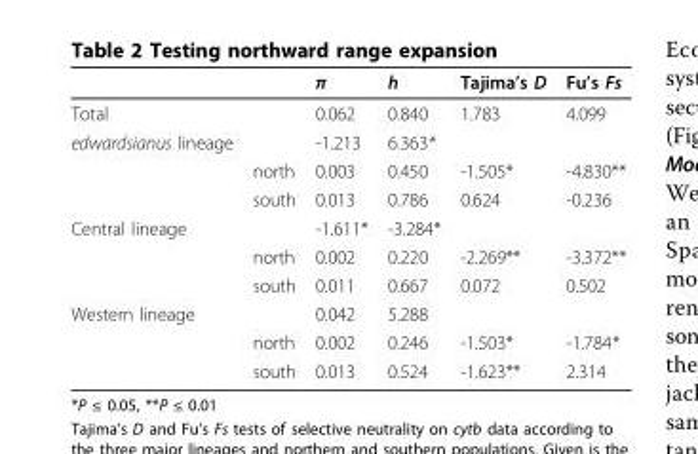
<table><thead><tr><td></td><td></td><td>π</td><td>h</td><td>Tajima’s D</td><td>Fu’s Fs</td></tr></thead><tbody><tr><td>Total</td><td></td><td>0.062</td><td>0.840</td><td>1.783</td><td>4.099</td></tr><tr><td rowspan="3">edwardsianus lineage</td><td></td><td>-1.213</td><td>6.363*</td><td></td><td></td></tr><tr><td>north</td><td>0.003</td><td>0.450</td><td>-1.505*</td><td>-4.830**</td></tr><tr><td>south</td><td>0.013</td><td>0.786</td><td>0.624</td><td>-0.236</td></tr><tr><td rowspan="3">Central lineage</td><td></td><td>-1.611*</td><td>-3.284*</td><td></td><td></td></tr><tr><td>north</td><td>0.002</td><td>0.220</td><td>-2.269**</td><td>-3.372**</td></tr><tr><td>south</td><td>0.011</td><td>0.667</td><td>0.072</td><td>0.502</td></tr><tr><td rowspan="3">Western lineage</td><td></td><td>0.042</td><td>5.288</td><td></td><td></td></tr><tr><td>north</td><td>0.002</td><td>0.246</td><td>-1.503*</td><td>-1.784*</td></tr><tr><td>south</td><td>0.013</td><td>0.524</td><td>-1.623**</td><td>2.314</td></tr></tbody></table>